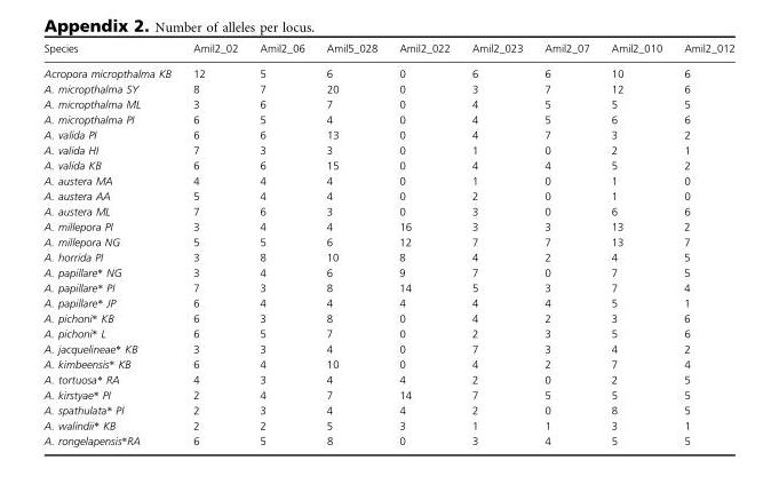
<table><thead><tr><td>Species</td><td>Amil2_02</td><td>Amil2_06</td><td>Amil5_028</td><td>Amil2_022</td><td>Amil2_023</td><td>Amil2_07</td><td>Amil2_010</td><td>Amil2_012</td></tr></thead><tbody><tr><td>Acropora micropthalma KB</td><td>12</td><td>5</td><td>6</td><td>0</td><td>6</td><td>6</td><td>10</td><td>6</td></tr><tr><td>A. micropthalma SY</td><td>8</td><td>7</td><td>20</td><td>0</td><td>3</td><td>7</td><td>12</td><td>6</td></tr><tr><td>A. micropthalma ML</td><td>3</td><td>6</td><td>7</td><td>0</td><td>4</td><td>5</td><td>5</td><td>5</td></tr><tr><td>A. micropthalma PI</td><td>6</td><td>5</td><td>4</td><td>0</td><td>4</td><td>5</td><td>6</td><td>6</td></tr><tr><td>A. valida PI</td><td>6</td><td>6</td><td>13</td><td>0</td><td>4</td><td>7</td><td>3</td><td>2</td></tr><tr><td>A. valida HI</td><td>7</td><td>3</td><td>3</td><td>0</td><td>1</td><td>0</td><td>2</td><td>1</td></tr><tr><td>A. valida KB</td><td>6</td><td>6</td><td>15</td><td>0</td><td>4</td><td>4</td><td>5</td><td>2</td></tr><tr><td>A. austera MA</td><td>4</td><td>4</td><td>4</td><td>0</td><td>1</td><td>0</td><td>1</td><td>0</td></tr><tr><td>A. austera AA</td><td>5</td><td>4</td><td>4</td><td>0</td><td>2</td><td>0</td><td>1</td><td>0</td></tr><tr><td>A. austera ML</td><td>7</td><td>6</td><td>3</td><td>0</td><td>3</td><td>0</td><td>6</td><td>6</td></tr><tr><td>A. millepora PI</td><td>3</td><td>4</td><td>4</td><td>16</td><td>3</td><td>3</td><td>13</td><td>2</td></tr><tr><td>A. millepora NG</td><td>5</td><td>5</td><td>6</td><td>12</td><td>7</td><td>7</td><td>13</td><td>7</td></tr><tr><td>A. horrida PI</td><td>3</td><td>8</td><td>10</td><td>8</td><td>4</td><td>2</td><td>4</td><td>5</td></tr><tr><td>A. papillare* NG</td><td>3</td><td>4</td><td>6</td><td>9</td><td>7</td><td>0</td><td>7</td><td>5</td></tr><tr><td>A. papillare* PI</td><td>7</td><td>3</td><td>8</td><td>14</td><td>5</td><td>3</td><td>7</td><td>4</td></tr><tr><td>A. papillare* JP</td><td>6</td><td>4</td><td>4</td><td>4</td><td>4</td><td>4</td><td>5</td><td>1</td></tr><tr><td>A. pichoni* KB</td><td>6</td><td>3</td><td>8</td><td>0</td><td>4</td><td>2</td><td>3</td><td>6</td></tr><tr><td>A. pichoni* L</td><td>6</td><td>5</td><td>7</td><td>0</td><td>2</td><td>3</td><td>5</td><td>6</td></tr><tr><td>A. jacquelineae* KB</td><td>3</td><td>3</td><td>4</td><td>0</td><td>7</td><td>3</td><td>4</td><td>2</td></tr><tr><td>A. kimbeensis* KB</td><td>6</td><td>4</td><td>10</td><td>0</td><td>4</td><td>2</td><td>7</td><td>4</td></tr><tr><td>A. tortuosa* RA</td><td>4</td><td>3</td><td>4</td><td>4</td><td>2</td><td>0</td><td>2</td><td>5</td></tr><tr><td>A. kirstyae* PI</td><td>2</td><td>4</td><td>7</td><td>14</td><td>7</td><td>5</td><td>5</td><td>5</td></tr><tr><td>A. spathulata* PI</td><td>2</td><td>3</td><td>4</td><td>4</td><td>2</td><td>0</td><td>8</td><td>5</td></tr><tr><td>A. walindii* KB</td><td>2</td><td>2</td><td>5</td><td>3</td><td>1</td><td>1</td><td>3</td><td>1</td></tr><tr><td>A. rongelapensis*RA</td><td>6</td><td>5</td><td>8</td><td>0</td><td>3</td><td>4</td><td>5</td><td>5</td></tr></tbody></table>